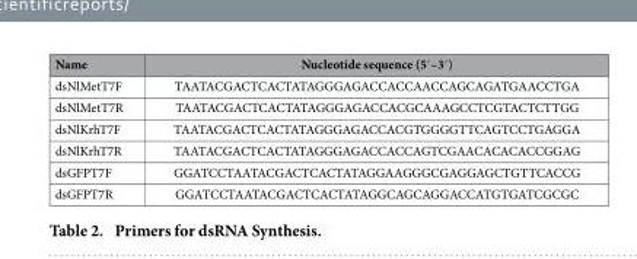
<table><thead><tr><td>Name</td><td>Nucleotide sequence (5′ –3′ )</td></tr></thead><tbody><tr><td>dsNlMetT7F</td><td>TAATACGACTCACTATAGGGAGACCACCAACCAGCAGATGAACCTGA</td></tr><tr><td>dsNlMetT7R</td><td>TAATACGACTCACTATAGGGAGACCACGCAAAGCCTCGTACTCTTGG</td></tr><tr><td>dsNlKrhT7F</td><td>TAATACGACTCACTATAGGGAGACCACGTGGGGTTCAGTCCTGAGGA</td></tr><tr><td>dsNlKrhT7R</td><td>TAATACGACTCACTATAGGGAGACCACCAGTCGAACACACACCGGAG</td></tr><tr><td>dsGFPT7F</td><td>GGATCCTAATACGACTCACTATAGGAAGGGCGAGGAGCTGTTCACCG</td></tr><tr><td>dsGFPT7R</td><td>GGATCCTAATACGACTCACTATAGGCAGCAGGACCATGTGATCGCGC</td></tr></tbody></table>